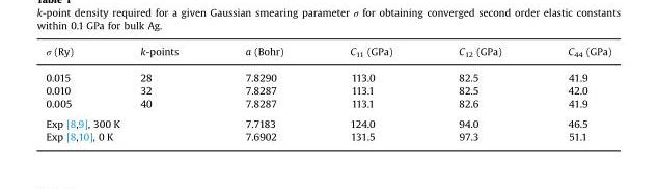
<table><thead><tr><td>σ (Ry)</td><td>k-points</td><td>a (Bohr)</td><td>C<sub>11</sub> (GPa)</td><td>C<sub>12</sub> (GPa)</td><td>C<sub>44</sub> (GPa)</td></tr></thead><tbody><tr><td>0.015</td><td>28</td><td>7.8290</td><td>113.0</td><td>82.5</td><td>41.9</td></tr><tr><td>0.010</td><td>32</td><td>7.8287</td><td>113.1</td><td>82.5</td><td>42.0</td></tr><tr><td>0.005</td><td>40</td><td>7.8287</td><td>113.1</td><td>82.6</td><td>41.9</td></tr><tr><td colspan="2">Exp [8,9], 300 K</td><td>7.7183</td><td>124.0</td><td>94.0</td><td>46.5</td></tr><tr><td colspan="2">Exp [8,10], 0 K</td><td>7.6902</td><td>131.5</td><td>97.3</td><td>51.1</td></tr></tbody></table>